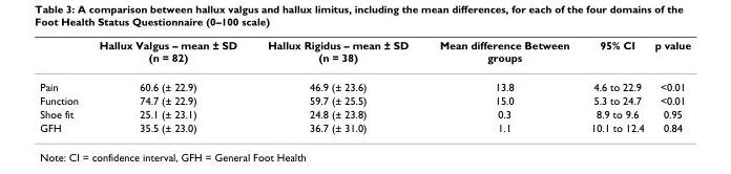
<table><thead><tr><td></td><td>Hallux Valgus – mean ± SD (n = 82)</td><td>Hallux Rigidus – mean ± SD (n = 38)</td><td>Mean difference Between groups</td><td>95% CI</td><td>p value</td></tr></thead><tbody><tr><td>Pain</td><td>60.6 (± 22.9)</td><td>46.9 (± 23.6)</td><td>13.8</td><td>4.6 to 22.9</td><td>&lt;0.01</td></tr><tr><td>Function</td><td>74.7 (± 22.9)</td><td>59.7 (± 25.5)</td><td>15.0</td><td>5.3 to 24.7</td><td>&lt;0.01</td></tr><tr><td>Shoe fit</td><td>25.1 (± 23.1)</td><td>24.8 (± 23.8)</td><td>0.3</td><td>8.9 to 9.6</td><td>0.95</td></tr><tr><td>GFH</td><td>35.5 (± 23.0)</td><td>36.7 (± 31.0)</td><td>1.1</td><td>10.1 to 12.4</td><td>0.84</td></tr></tbody></table>